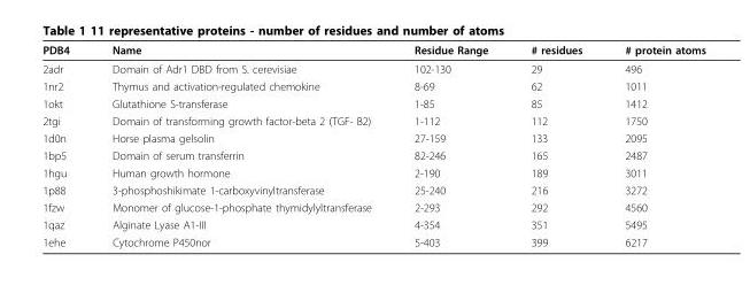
<table><thead><tr><td>PDB4</td><td>Name</td><td>Residue Range</td><td># residues</td><td># protein atoms</td></tr></thead><tbody><tr><td>2adr</td><td>Domain of Adr1 DBD from S. cerevisiae</td><td>102-130</td><td>29</td><td>496</td></tr><tr><td>1nr2</td><td>Thymus and activation-regulated chemokine</td><td>8-69</td><td>62</td><td>1011</td></tr><tr><td>1okt</td><td>Glutathione S-transferase</td><td>1-85</td><td>85</td><td>1412</td></tr><tr><td>2tgi</td><td>Domain of transforming growth factor-beta 2 (TGF- B2)</td><td>1-112</td><td>112</td><td>1750</td></tr><tr><td>1d0n</td><td>Horse plasma gelsolin</td><td>27-159</td><td>133</td><td>2095</td></tr><tr><td>1bp5</td><td>Domain of serum transferrin</td><td>82-246</td><td>165</td><td>2487</td></tr><tr><td>1hgu</td><td>Human growth hormone</td><td>2-190</td><td>189</td><td>3011</td></tr><tr><td>1p88</td><td>3-phosphoshikimate 1-carboxyvinyltransferase</td><td>25-240</td><td>216</td><td>3272</td></tr><tr><td>1fzw</td><td>Monomer of glucose-1-phosphate thymidylyltransferase</td><td>2-293</td><td>292</td><td>4560</td></tr><tr><td>1qaz</td><td>Alginate Lyase A1-III</td><td>4-354</td><td>351</td><td>5495</td></tr><tr><td>1ehe</td><td>Cytochrome P450nor</td><td>5-403</td><td>399</td><td>6217</td></tr></tbody></table>